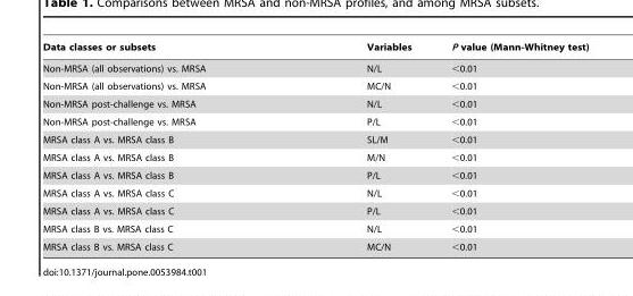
<table><thead><tr><td>Data classes or subsets</td><td>Variables</td><td>P value (Mann-Whitney test)</td></tr></thead><tbody><tr><td>Non-MRSA (all observations) vs. MRSA</td><td>N/L</td><td>&lt;0.01</td></tr><tr><td>Non-MRSA (all observations) vs. MRSA</td><td>MC/N</td><td>&lt;0.01</td></tr><tr><td>Non-MRSA post-challenge vs. MRSA</td><td>N/L</td><td>&lt;0.01</td></tr><tr><td>Non-MRSA post-challenge vs. MRSA</td><td>P/L</td><td>&lt;0.01</td></tr><tr><td>MRSA class A vs. MRSA class B</td><td>SL/M</td><td>&lt;0.01</td></tr><tr><td>MRSA class A vs. MRSA class B</td><td>M/N</td><td>&lt;0.01</td></tr><tr><td>MRSA class A vs. MRSA class B</td><td>P/L</td><td>&lt;0.01</td></tr><tr><td>MRSA class A vs. MRSA class C</td><td>N/L</td><td>&lt;0.01</td></tr><tr><td>MRSA class A vs. MRSA class C</td><td>P/L</td><td>&lt;0.01</td></tr><tr><td>MRSA class B vs. MRSA class C</td><td>N/L</td><td>&lt;0.01</td></tr><tr><td>MRSA class B vs. MRSA class C</td><td>MC/N</td><td>&lt;0.01</td></tr></tbody></table>